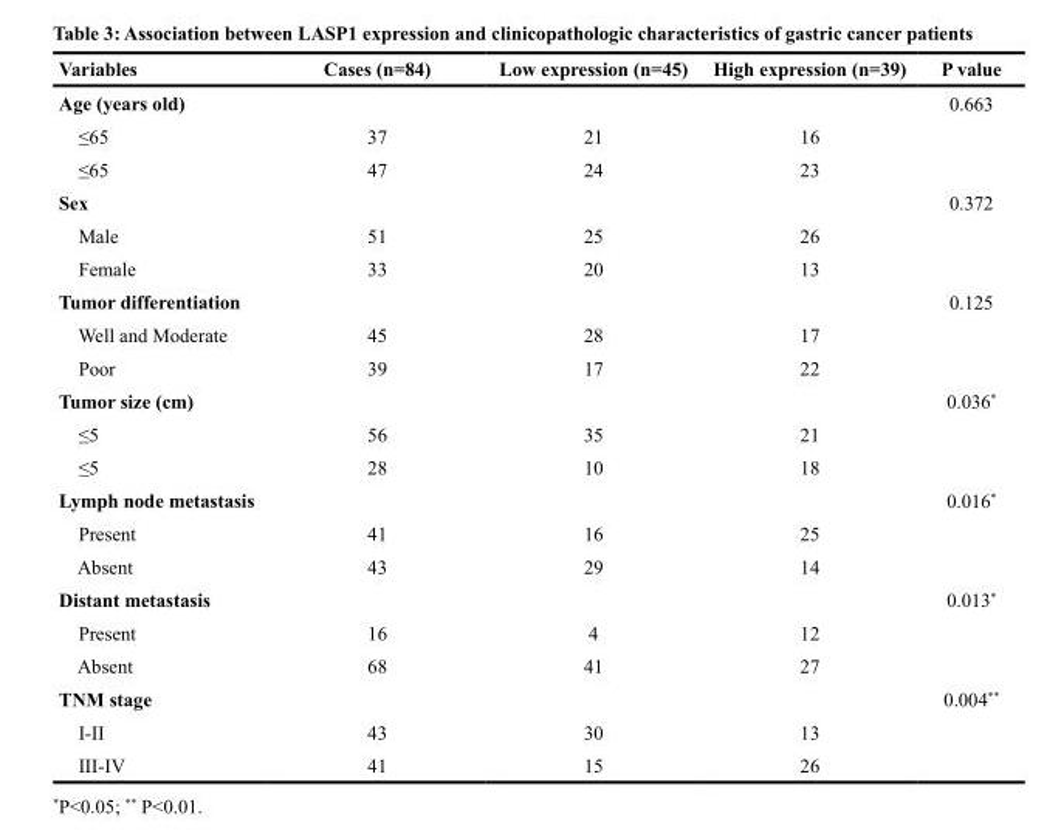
<table><thead><tr><td>Variables</td><td>Cases (n=84)</td><td>Low expression (n=45)</td><td>High expression (n=39)</td><td>P value</td></tr></thead><tbody><tr><td>Age (years old)</td><td></td><td></td><td></td><td>0.663</td></tr><tr><td>≤65</td><td>37</td><td>21</td><td>16</td><td></td></tr><tr><td>≤65</td><td>47</td><td>24</td><td>23</td><td></td></tr><tr><td>Sex</td><td></td><td></td><td></td><td>0.372</td></tr><tr><td>Male</td><td>51</td><td>25</td><td>26</td><td></td></tr><tr><td>Female</td><td>33</td><td>20</td><td>13</td><td></td></tr><tr><td>Tumor differentiation</td><td></td><td></td><td></td><td>0.125</td></tr><tr><td>Well and Moderate</td><td>45</td><td>28</td><td>17</td><td></td></tr><tr><td>Poor</td><td>39</td><td>17</td><td>22</td><td></td></tr><tr><td>Tumor size (cm)</td><td></td><td></td><td></td><td>0.036*</td></tr><tr><td>≤5</td><td>56</td><td>35</td><td>21</td><td></td></tr><tr><td>≤5</td><td>28</td><td>10</td><td>18</td><td></td></tr><tr><td>Lymph node metastasis</td><td></td><td></td><td></td><td>0.016*</td></tr><tr><td>Present</td><td>41</td><td>16</td><td>25</td><td></td></tr><tr><td>Absent</td><td>43</td><td>29</td><td>14</td><td></td></tr><tr><td>Distant metastasis</td><td></td><td></td><td></td><td>0.013*</td></tr><tr><td>Present</td><td>16</td><td>4</td><td>12</td><td></td></tr><tr><td>Absent</td><td>68</td><td>41</td><td>27</td><td></td></tr><tr><td>TNM stage</td><td></td><td></td><td></td><td>0.004**</td></tr><tr><td>I-II</td><td>43</td><td>30</td><td>13</td><td></td></tr><tr><td>III-IV</td><td>41</td><td>15</td><td>26</td><td></td></tr></tbody></table>